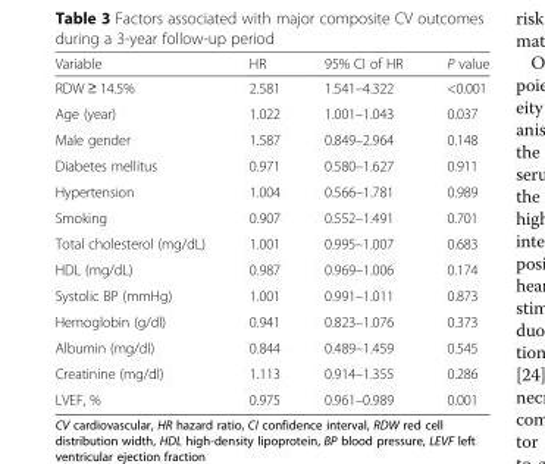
<table><thead><tr><td>Variable</td><td>HR</td><td>95% CI of HR</td><td>P value</td></tr></thead><tbody><tr><td>RDW ≥ 14.5%</td><td>2.581</td><td>1.541–4.322</td><td>&lt;0.001</td></tr><tr><td>Age (year)</td><td>1.022</td><td>1.001–1.043</td><td>0.037</td></tr><tr><td>Male gender</td><td>1.587</td><td>0.849–2.964</td><td>0.148</td></tr><tr><td>Diabetes mellitus</td><td>0.971</td><td>0.580–1.627</td><td>0.911</td></tr><tr><td>Hypertension</td><td>1.004</td><td>0.566–1.781</td><td>0.989</td></tr><tr><td>Smoking</td><td>0.907</td><td>0.552–1.491</td><td>0.701</td></tr><tr><td>Total cholesterol (mg/dL)</td><td>1.001</td><td>0.995–1.007</td><td>0.683</td></tr><tr><td>HDL (mg/dL)</td><td>0.987</td><td>0.969–1.006</td><td>0.174</td></tr><tr><td>Systolic BP (mmHg)</td><td>1.001</td><td>0.991–1.011</td><td>0.873</td></tr><tr><td>Hemoglobin (g/dl)</td><td>0.941</td><td>0.823–1.076</td><td>0.373</td></tr><tr><td>Albumin (mg/dl)</td><td>0.844</td><td>0.489–1.459</td><td>0.545</td></tr><tr><td>Creatinine (mg/dl)</td><td>1.113</td><td>0.914–1.355</td><td>0.286</td></tr><tr><td>LVEF, %</td><td>0.975</td><td>0.961–0.989</td><td>0.001</td></tr></tbody></table>